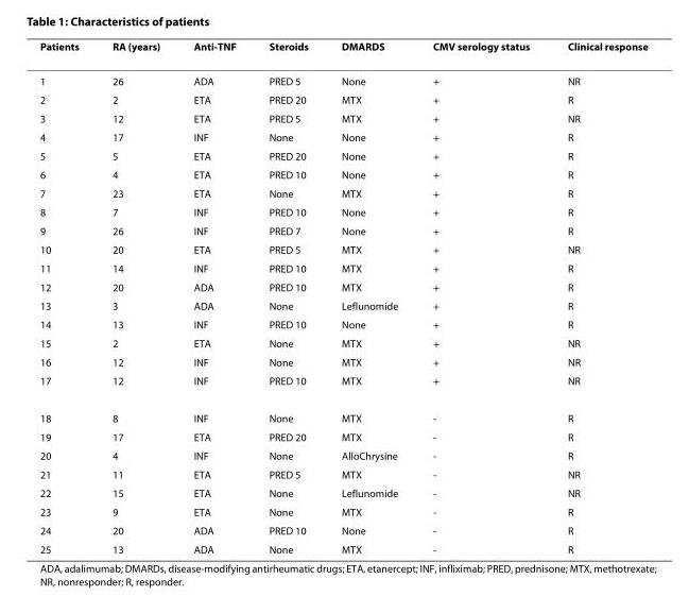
<table><thead><tr><td>Patients</td><td>RA (years)</td><td>Anti-TNF</td><td>Steroids</td><td>DMARDS</td><td>CMV serology status</td><td>Clinical response</td></tr></thead><tbody><tr><td>1</td><td>26</td><td>ADA</td><td>PRED 5</td><td>None</td><td>+</td><td>NR</td></tr><tr><td>2</td><td>2</td><td>ETA</td><td>PRED 20</td><td>MTX</td><td>+</td><td>R</td></tr><tr><td>3</td><td>12</td><td>ETA</td><td>PRED 5</td><td>MTX</td><td>+</td><td>NR</td></tr><tr><td>4</td><td>17</td><td>INF</td><td>None</td><td>None</td><td>+</td><td>R</td></tr><tr><td>5</td><td>5</td><td>ETA</td><td>PRED 20</td><td>None</td><td>+</td><td>R</td></tr><tr><td>6</td><td>4</td><td>ETA</td><td>PRED 10</td><td>None</td><td>+</td><td>R</td></tr><tr><td>7</td><td>23</td><td>ETA</td><td>None</td><td>MTX</td><td>+</td><td>R</td></tr><tr><td>8</td><td>7</td><td>INF</td><td>PRED 10</td><td>None</td><td>+</td><td>R</td></tr><tr><td>9</td><td>26</td><td>INF</td><td>PRED 7</td><td>None</td><td>+</td><td>R</td></tr><tr><td>10</td><td>20</td><td>ETA</td><td>PRED 5</td><td>MTX</td><td>+</td><td>NR</td></tr><tr><td>11</td><td>14</td><td>INF</td><td>PRED 10</td><td>MTX</td><td>+</td><td>R</td></tr><tr><td>12</td><td>20</td><td>ADA</td><td>PRED 10</td><td>MTX</td><td>+</td><td>R</td></tr><tr><td>13</td><td>3</td><td>ADA</td><td>None</td><td>Leflunomide</td><td>+</td><td>R</td></tr><tr><td>14</td><td>13</td><td>INF</td><td>PRED 10</td><td>None</td><td>+</td><td>R</td></tr><tr><td>15</td><td>2</td><td>ETA</td><td>None</td><td>MTX</td><td>+</td><td>NR</td></tr><tr><td>16</td><td>12</td><td>INF</td><td>None</td><td>MTX</td><td>+</td><td>NR</td></tr><tr><td>17</td><td>12</td><td>INF</td><td>PRED 10</td><td>MTX</td><td>+</td><td>NR</td></tr><tr><td>18</td><td>8</td><td>INF</td><td>None</td><td>MTX</td><td>-</td><td>R</td></tr><tr><td>19</td><td>17</td><td>ETA</td><td>PRED 20</td><td>MTX</td><td>-</td><td>R</td></tr><tr><td>20</td><td>4</td><td>INF</td><td>None</td><td>AlloChrysine</td><td>-</td><td>R</td></tr><tr><td>21</td><td>11</td><td>ETA</td><td>PRED 5</td><td>MTX</td><td>-</td><td>NR</td></tr><tr><td>22</td><td>15</td><td>ETA</td><td>None</td><td>Leflunomide</td><td>-</td><td>NR</td></tr><tr><td>23</td><td>9</td><td>ETA</td><td>None</td><td>MTX</td><td>-</td><td>R</td></tr><tr><td>24</td><td>20</td><td>ADA</td><td>PRED 10</td><td>None</td><td>-</td><td>R</td></tr><tr><td>25</td><td>13</td><td>ADA</td><td>None</td><td>MTX</td><td>-</td><td>R</td></tr></tbody></table>